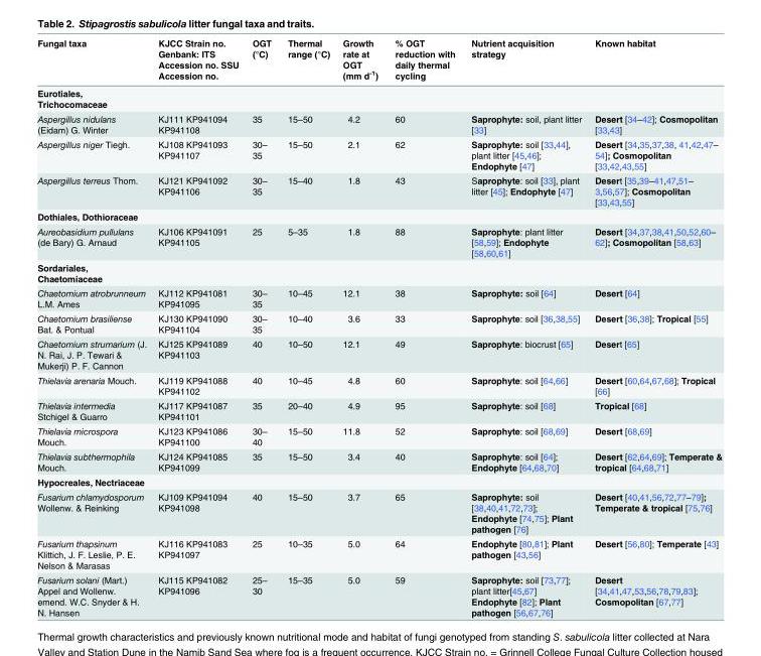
<table><thead><tr><td>Fungal taxa</td><td>KJCC Strain no. Genbank: ITS Accession no. SSU Accession no.</td><td>OGT (°C)</td><td>Thermal range (°C)</td><td>Growth rate at OGT (mm d<sup>-1</sup>)</td><td>% OGT reduction with daily thermal cycling</td><td>Nutrient acquisition strategy</td><td>Known habitat</td></tr></thead><tbody><tr><td colspan="8">Eurotiales, Trichocomaceae</td></tr><tr><td>Aspergillus nidulans (Eidam) G. Winter</td><td>KJ111 KP941094 KP941108</td><td>35</td><td>15–50</td><td>4.2</td><td>60</td><td>Saprophyte: soil, plant litter [33]</td><td>Desert [34–42]; Cosmopolitan [33,43]</td></tr><tr><td>Aspergillus niger Tiegh.</td><td>KJ108 KP941093 KP941107</td><td>30– 35</td><td>15–50</td><td>2.1</td><td>62</td><td>Saprophyte: soil [33,44], plant litter [45,46]; Endophyte [47]</td><td>Desert [34,35,37,38, 41,42,47– 54]; Cosmopolitan [33,42,43,55]</td></tr><tr><td>Aspergillus terreus Thom.</td><td>KJ121 KP941092 KP941106</td><td>30– 35</td><td>15–40</td><td>1.8</td><td>43</td><td>Saprophyte: soil [33], plant litter [45]; Endophyte [47]</td><td>Desert [35,39–41,47,51– 3,56,57]; Cosmopolitan [33,43,55]</td></tr><tr><td colspan="8">Dothiales, Dothioraceae</td></tr><tr><td>Aureobasidium pullulans (de Bary) G. Arnaud</td><td>KJ106 KP941091 KP941105</td><td>25</td><td>5–35</td><td>1.8</td><td>88</td><td>Saprophyte: plant litter [58,59]; Endophyte [58,60,61]</td><td>Desert [34,37,38,41,50,52,60– 62]; Cosmopolitan [58,63]</td></tr><tr><td colspan="8">Sordariales, Chaetomiaceae</td></tr><tr><td>Chaetomium atrobrunneum L.M. Ames</td><td>KJ112 KP941081 KP941095</td><td>30– 35</td><td>10–45</td><td>12.1</td><td>38</td><td>Saprophyte: soil [64]</td><td>Desert [64]</td></tr><tr><td>Chaetomium brasiliense Bat. &amp; Pontual</td><td>KJ130 KP941090 KP941104</td><td>30– 35</td><td>10–40</td><td>3.6</td><td>33</td><td>Saprophyte: soil [36,38,55]</td><td>Desert [36,38]; Tropical [55]</td></tr><tr><td>Chaetomium strumarium (J. N. Rai, J. P. Tewari &amp; Mukerji) P. F. Cannon</td><td>KJ125 KP941089 KP941103</td><td>40</td><td>10–50</td><td>12.1</td><td>49</td><td>Saprophyte: biocrust [65]</td><td>Desert [65]</td></tr><tr><td>Thielavia arenaria Mouch.</td><td>KJ119 KP941088 KP941102</td><td>40</td><td>10–45</td><td>4.8</td><td>60</td><td>Saprophyte: soil [64,66]</td><td>Desert [60,64,67,68]; Tropical [66]</td></tr><tr><td>Thielavia intermedia Stchigel &amp; Guarro</td><td>KJ117 KP941087 KP941101</td><td>35</td><td>20–40</td><td>4.9</td><td>95</td><td>Saprophyte: soil [68]</td><td>Tropical [68]</td></tr><tr><td>Thielavia microspora Mouch.</td><td>KJ123 KP941086 KP941100</td><td>30– 40</td><td>15–50</td><td>11.8</td><td>52</td><td>Saprophyte: soil [68,69]</td><td>Desert [68,69]</td></tr><tr><td>Thielavia subthermophila Mouch.</td><td>KJ124 KP941085 KP941099</td><td>35</td><td>15–50</td><td>3.4</td><td>40</td><td>Saprophyte: soil [64]; Endophyte [64,68,70]</td><td>Desert [62,64,69]; Temperate &amp; tropical [64,68,71]</td></tr><tr><td colspan="8">Hypocreales, Nectriaceae</td></tr><tr><td>Fusarium chlamydosporum Wollenw. &amp; Reinking</td><td>KJ109 KP941094 KP941098</td><td>40</td><td>15–50</td><td>3.7</td><td>65</td><td>Saprophyte: soil [38,40,41,72,73]; Endophyte [74,75]; Plant pathogen [76]</td><td>Desert [40,41,56,72,77–79]; Temperate &amp; tropical [75,76]</td></tr><tr><td>Fusarium thapsinum Klittich, J. F. Leslie, P. E. Nelson &amp; Marasas</td><td>KJ116 KP941083 KP941097</td><td>25</td><td>10–35</td><td>5.0</td><td>64</td><td>Endophyte [80,81]; Plant pathogen [43,56]</td><td>Desert [56,80]; Temperate [43]</td></tr><tr><td>Fusarium solani (Mart.) Appel and Wollenw. emend. W.C. Snyder &amp; H. N. Hansen</td><td>KJ115 KP941082 KP941096</td><td>25– 30</td><td>15–35</td><td>5.0</td><td>59</td><td>Saprophyte: soil [73,77]; plant litter[45,67] Endophyte [82]; Plant pathogen [56,67,76]</td><td>Desert [34,41,47,53,56,78,79,83]; Cosmopolitan [67,77]</td></tr></tbody></table>